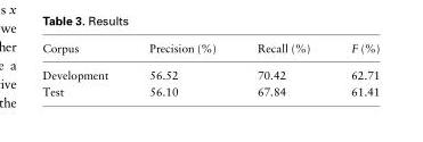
<table><thead><tr><td>Corpus</td><td>Precision (%)</td><td>Recall (%)</td><td>F (%)</td></tr></thead><tbody><tr><td>Development</td><td>56.52</td><td>70.42</td><td>62.71</td></tr><tr><td>Test</td><td>56.10</td><td>67.84</td><td>61.41</td></tr></tbody></table>